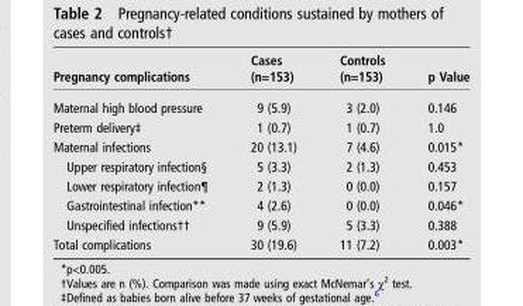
<table><thead><tr><td>Pregnancy complications</td><td>Cases (n=153)</td><td>Controls (n=153)</td><td>p Value</td></tr></thead><tbody><tr><td>Maternal high blood pressure</td><td>9 (5.9)</td><td>3 (2.0)</td><td>0.146</td></tr><tr><td>Preterm delivery‡</td><td>1 (0.7)</td><td>1 (0.7)</td><td>1.0</td></tr><tr><td>Maternal infections</td><td>20 (13.1)</td><td>7 (4.6)</td><td>0.015*</td></tr><tr><td>Upper respiratory infection§</td><td>5 (3.3)</td><td>2 (1.3)</td><td>0.453</td></tr><tr><td>Lower respiratory infection¶</td><td>2 (1.3)</td><td>0 (0.0)</td><td>0.157</td></tr><tr><td>Gastrointestinal infection**</td><td>4 (2.6)</td><td>0 (0.0)</td><td>0.046*</td></tr><tr><td>Unspecified infections††</td><td>9 (5.9)</td><td>5 (3.3)</td><td>0.388</td></tr><tr><td>Total complications</td><td>30 (19.6)</td><td>11 (7.2)</td><td>0.003*</td></tr></tbody></table>